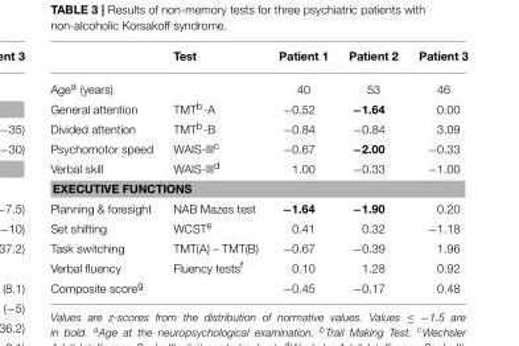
<table><thead><tr><td></td><td>Test</td><td>Patient 1</td><td>Patient 2</td><td>Patient 3</td></tr></thead><tbody><tr><td>Age<sup>a</sup> (years)</td><td></td><td>40</td><td>53</td><td>46</td></tr><tr><td>General attention</td><td>TMT<sup>b</sup>-A</td><td>−0.52</td><td>−1.64</td><td>0.00</td></tr><tr><td>Divided attention</td><td>TMT<sup>b</sup>-B</td><td>−0.84</td><td>−0.84</td><td>3.09</td></tr><tr><td>Psychomotor speed</td><td>WAIS-III<sup>c</sup></td><td>−0.67</td><td>−2.00</td><td>−0.33</td></tr><tr><td>Verbal skill</td><td>WAIS-III<sup>d</sup></td><td>1.00</td><td>−0.33</td><td>−1.00</td></tr><tr><td colspan="5">EXECUTIVE FUNCTIONS</td></tr><tr><td>Planning &amp; foresight</td><td>NAB Mazes test</td><td>−1.64</td><td>−1.90</td><td>0.20</td></tr><tr><td>Set shifting</td><td>WCST<sup>e</sup></td><td>0.41</td><td>0.32</td><td>−1.18</td></tr><tr><td>Task switching</td><td>TMT(A) – TMT(B)</td><td>−0.67</td><td>−0.39</td><td>1.96</td></tr><tr><td>Verbal fluency</td><td>Fluency tests<sup>f</sup></td><td>0.10</td><td>1.28</td><td>0.92</td></tr><tr><td>Composite score<sup>g</sup></td><td></td><td>−0.45</td><td>−0.17</td><td>0.48</td></tr></tbody></table>